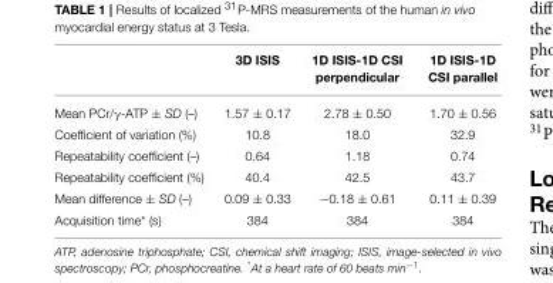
<table><thead><tr><td></td><td>3D ISIS</td><td>1D ISIS-1D CSI perpendicular</td><td>1D ISIS-1D CSI parallel</td></tr></thead><tbody><tr><td>Mean PCr/γ-ATP ± SD (–)</td><td>1.57 ± 0.17</td><td>2.78 ± 0.50</td><td>1.70 ± 0.56</td></tr><tr><td>Coefficient of variation (%)</td><td>10.8</td><td>18.0</td><td>32.9</td></tr><tr><td>Repeatability coefficient (–)</td><td>0.64</td><td>1.18</td><td>0.74</td></tr><tr><td>Repeatability coefficient (%)</td><td>40.4</td><td>42.5</td><td>43.7</td></tr><tr><td>Mean difference ± SD (–)</td><td>0.09 ± 0.33</td><td>−0.18 ± 0.61</td><td>0.11 ± 0.39</td></tr><tr><td>Acquisition time* (s)</td><td>384</td><td>384</td><td>384</td></tr></tbody></table>